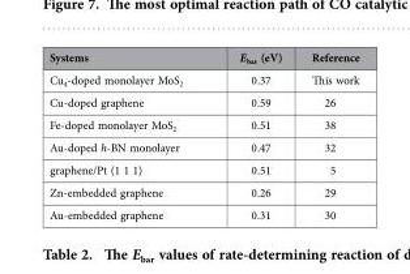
<table><thead><tr><td>Systems</td><td>E<sub>bar</sub> (eV)</td><td>Reference</td></tr></thead><tbody><tr><td>Cu<sub>4</sub>-doped monolayer MoS<sub>2</sub></td><td>0.37</td><td>This work</td></tr><tr><td>Cu-doped graphene</td><td>0.59</td><td>26</td></tr><tr><td>Fe-doped monolayer MoS<sub>2</sub></td><td>0.51</td><td>38</td></tr><tr><td>Au-doped h-BN monolayer</td><td>0.47</td><td>32</td></tr><tr><td>graphene/Pt (1 1 1)</td><td>0.51</td><td>5</td></tr><tr><td>Zn-embedded graphene</td><td>0.26</td><td>29</td></tr><tr><td>Au-embedded graphene</td><td>0.31</td><td>30</td></tr></tbody></table>